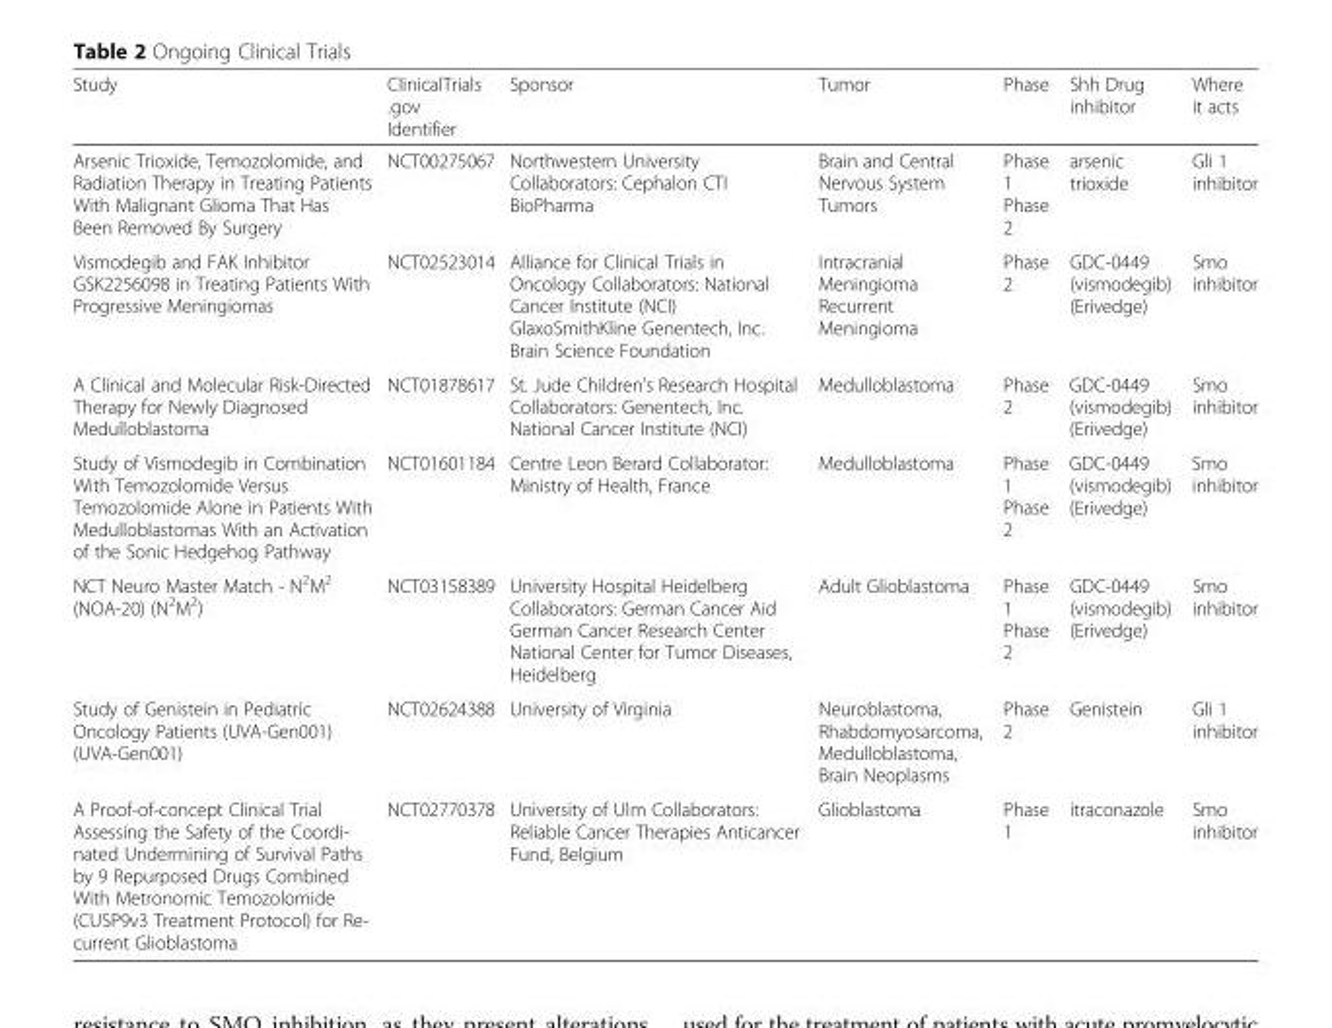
<table><thead><tr><td>Study</td><td>ClinicalTrials .gov Identifier</td><td>Sponsor</td><td>Tumor</td><td>Phase</td><td>Shh Drug inhibitor</td><td>Where it acts</td></tr></thead><tbody><tr><td>Arsenic Trioxide, Temozolomide, and Radiation Therapy in Treating Patients With Malignant Glioma That Has Been Removed By Surgery</td><td>NCT00275067</td><td>Northwestern University Collaborators: Cephalon CTI BioPharma</td><td>Brain and Central Nervous System Tumors</td><td>Phase 1 Phase 2</td><td>arsenic trioxide</td><td>Gli 1 inhibitor</td></tr><tr><td>Vismodegib and FAK Inhibitor GSK2256098 in Treating Patients With Progressive Meningiomas</td><td>NCT02523014</td><td>Alliance for Clinical Trials in Oncology Collaborators: National Cancer Institute (NCI) GlaxoSmithKline Genentech, Inc. Brain Science Foundation</td><td>Intracranial Meningioma Recurrent Meningioma</td><td>Phase 2</td><td>GDC-0449 (vismodegib) (Erivedge)</td><td>Smo inhibitor</td></tr><tr><td>A Clinical and Molecular Risk-Directed Therapy for Newly Diagnosed Medulloblastoma</td><td>NCT01878617</td><td>St. Jude Children’s Research Hospital Collaborators: Genentech, Inc. National Cancer Institute (NCI)</td><td>Medulloblastoma</td><td>Phase 2</td><td>GDC-0449 (vismodegib) (Erivedge)</td><td>Smo inhibitor</td></tr><tr><td>Study of Vismodegib in Combination With Temozolomide Versus Temozolomide Alone in Patients With Medulloblastomas With an Activation of the Sonic Hedgehog Pathway</td><td>NCT01601184</td><td>Centre Leon Berard Collaborator: Ministry of Health, France</td><td>Medulloblastoma</td><td>Phase 1 Phase 2</td><td>GDC-0449 (vismodegib) (Erivedge)</td><td>Smo inhibitor</td></tr><tr><td>NCT Neuro Master Match - N<sup>2</sup>M<sup>2</sup> (NOA-20) (N<sup>2</sup>M<sup>2</sup>)</td><td>NCT03158389</td><td>University Hospital Heidelberg Collaborators: German Cancer Aid German Cancer Research Center National Center for Tumor Diseases, Heidelberg</td><td>Adult Glioblastoma</td><td>Phase 1 Phase 2</td><td>GDC-0449 (vismodegib) (Erivedge)</td><td>Smo inhibitor</td></tr><tr><td>Study of Genistein in Pediatric Oncology Patients (UVA-Gen001) (UVA-Gen001)</td><td>NCT02624388</td><td>University of Virginia</td><td>Neuroblastoma, Rhabdomyosarcoma, Medulloblastoma, Brain Neoplasms</td><td>Phase 2</td><td>Genistein</td><td>Gli 1 inhibitor</td></tr><tr><td>A Proof-of-concept Clinical Trial Assessing the Safety of the Coordi- nated Undermining of Survival Paths by 9 Repurposed Drugs Combined With Metronomic Temozolomide (CUSP9v3 Treatment Protocol) for Re- current Glioblastoma</td><td>NCT02770378</td><td>University of Ulm Collaborators: Reliable Cancer Therapies Anticancer Fund, Belgium</td><td>Glioblastoma</td><td>Phase 1</td><td>itraconazole</td><td>Smo inhibitor</td></tr></tbody></table>